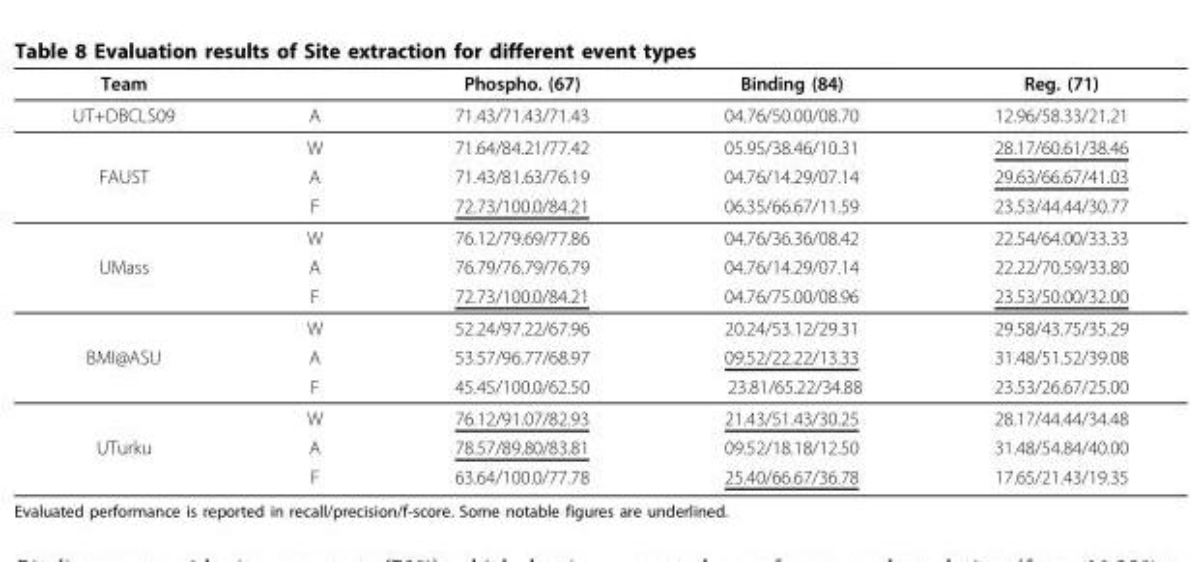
<table><thead><tr><td>Team</td><td></td><td>Phospho. (67)</td><td>Binding (84)</td><td>Reg. (71)</td></tr></thead><tbody><tr><td rowspan="2">UT+DBCLS09</td><td>A</td><td>71.43/71.43/71.43</td><td>04.76/50.00/08.70</td><td>12.96/58.33/21.21</td></tr><tr><td>W</td><td>71.64/84.21/77.42</td><td>05.95/38.46/10.31</td><td>28.17/60.61/38.46</td></tr><tr><td rowspan="3">FAUST</td><td>A</td><td>71.43/81.63/76.19</td><td>04.76/14.29/07.14</td><td>29.63/66.67/41.03</td></tr><tr><td>F</td><td>72.73/100.0/84.21</td><td>06.35/66.67/11.59</td><td>23.53/44.44/30.77</td></tr><tr><td>W</td><td>76.12/79.69/77.86</td><td>04.76/36.36/08.42</td><td>22.54/64.00/33.33</td></tr><tr><td rowspan="3">UMass</td><td>A</td><td>76.79/76.79/76.79</td><td>04.76/14.29/07.14</td><td>22.22/70.59/33.80</td></tr><tr><td>F</td><td>72.73/100.0/84.21</td><td>04.76/75.00/08.96</td><td>23.53/50.00/32.00</td></tr><tr><td>W</td><td>52.24/97.22/67.96</td><td>20.24/53.12/29.31</td><td>29.58/43.75/35.29</td></tr><tr><td rowspan="3">BMI@ASU</td><td>A</td><td>53.57/96.77/68.97</td><td>09.52/22.22/13.33</td><td>31.48/51.52/39.08</td></tr><tr><td>F</td><td>45.45/100.0/62.50</td><td>23.81/65.22/34.88</td><td>23.53/26.67/25.00</td></tr><tr><td>W</td><td>76.12/91.07/82.93</td><td>21.43/51.43/30.25</td><td>28.17/44.44/34.48</td></tr><tr><td rowspan="2">UTurku</td><td>A</td><td>78.57/89.80/83.81</td><td>09.52/18.18/12.50</td><td>31.48/54.84/40.00</td></tr><tr><td>F</td><td>63.64/100.0/77.78</td><td>25.40/66.67/36.78</td><td>17.65/21.43/19.35</td></tr></tbody></table>